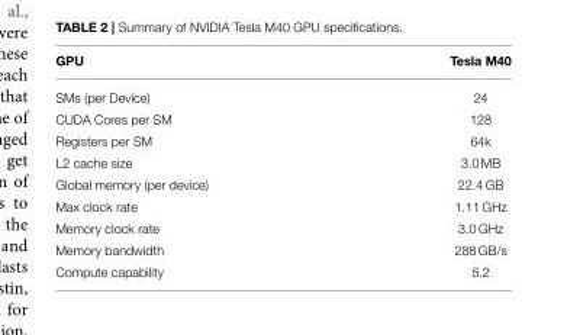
<table><thead><tr><td>GPU</td><td>Tesla M40</td></tr></thead><tbody><tr><td>SMs (per Device)</td><td>24</td></tr><tr><td>CUDA Cores per SM</td><td>128</td></tr><tr><td>Registers per SM</td><td>64k</td></tr><tr><td>L2 cache size</td><td>3.0 MB</td></tr><tr><td>Global memory (per device)</td><td>22.4 GB</td></tr><tr><td>Max clock rate</td><td>1.11 GHz</td></tr><tr><td>Memory clock rate</td><td>3.0 GHz</td></tr><tr><td>Memory bandwidth</td><td>288 GB/s</td></tr><tr><td>Compute capability</td><td>5.2</td></tr></tbody></table>